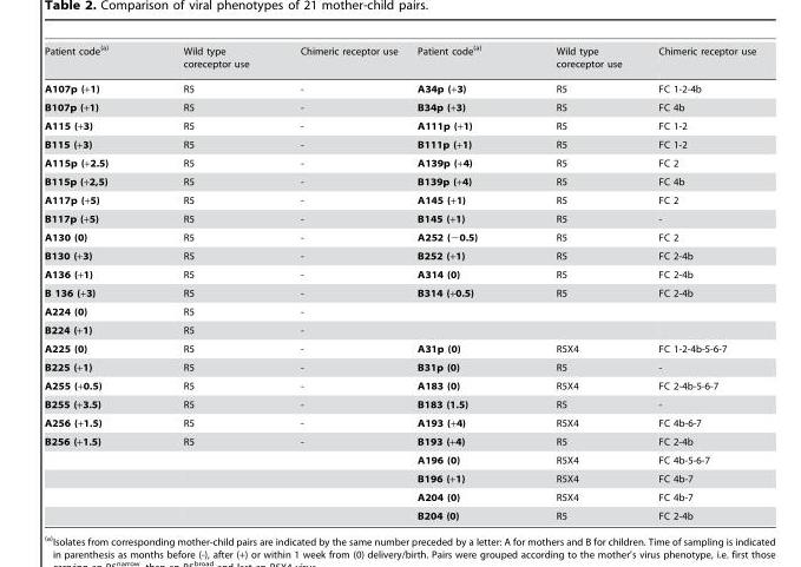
<table><tbody><tr><td>Patient code(a)</td><td>Wild type coreceptor use</td><td>Chimeric receptor use</td><td>Patient code(a)</td><td>Wild type coreceptor use</td><td>Chimeric receptor use</td></tr><tr><td>A107p (+1)</td><td>R5</td><td>-</td><td>A34p (+3)</td><td>R5</td><td>FC 1-2-4b</td></tr><tr><td>B107p (+1)</td><td>R5</td><td>-</td><td>B34p (+3)</td><td>R5</td><td>FC 4b</td></tr><tr><td>A115 (+3)</td><td>R5</td><td>-</td><td>A111p (+1)</td><td>R5</td><td>FC 1-2</td></tr><tr><td>B115 (+3)</td><td>R5</td><td>-</td><td>B111p (+1)</td><td>R5</td><td>FC 1-2</td></tr><tr><td>A115p (+2.5)</td><td>R5</td><td>-</td><td>A139p (+4)</td><td>R5</td><td>FC 2</td></tr><tr><td>B115p (+2,5)</td><td>R5</td><td>-</td><td>B139p (+4)</td><td>R5</td><td>FC 4b</td></tr><tr><td>A117p (+5)</td><td>R5</td><td>-</td><td>A145 (+1)</td><td>R5</td><td>FC 2</td></tr><tr><td>B117p (+5)</td><td>R5</td><td>-</td><td>B145 (+1)</td><td>R5</td><td>-</td></tr><tr><td>A130 (0)</td><td>R5</td><td>-</td><td>A252 (−0.5)</td><td>R5</td><td>FC 2</td></tr><tr><td>B130 (+3)</td><td>R5</td><td>-</td><td>B252 (+1)</td><td>R5</td><td>FC 2-4b</td></tr><tr><td>A136 (+1)</td><td>R5</td><td>-</td><td>A314 (0)</td><td>R5</td><td>FC 2-4b</td></tr><tr><td>B 136 (+3)</td><td>R5</td><td>-</td><td>B314 (+0.5)</td><td>R5</td><td>FC 2-4b</td></tr><tr><td>A224 (0)</td><td>R5</td><td>-</td><td></td><td></td><td></td></tr><tr><td>B224 (+1)</td><td>R5</td><td>-</td><td></td><td></td><td></td></tr><tr><td>A225 (0)</td><td>R5</td><td>-</td><td>A31p (0)</td><td>R5X4</td><td>FC 1-2-4b-5-6-7</td></tr><tr><td>B225 (+1)</td><td>R5</td><td>-</td><td>B31p (0)</td><td>R5</td><td>-</td></tr><tr><td>A255 (+0.5)</td><td>R5</td><td>-</td><td>A183 (0)</td><td>R5X4</td><td>FC 2-4b-5-6-7</td></tr><tr><td>B255 (+3.5)</td><td>R5</td><td>-</td><td>B183 (1.5)</td><td>R5</td><td>-</td></tr><tr><td>A256 (+1.5)</td><td>R5</td><td>-</td><td>A193 (+4)</td><td>R5X4</td><td>FC 4b-6-7</td></tr><tr><td rowspan="5">B256 (+1.5)</td><td>R5</td><td>-</td><td>B193 (+4)</td><td>R5</td><td>FC 2-4b</td></tr><tr><td></td><td></td><td>A196 (0)</td><td>R5X4</td><td>FC 4b-5-6-7</td></tr><tr><td></td><td></td><td>B196 (+1)</td><td>R5X4</td><td>FC 4b-7</td></tr><tr><td></td><td></td><td>A204 (0)</td><td>R5X4</td><td>FC 4b-7</td></tr><tr><td></td><td></td><td>B204 (0)</td><td>R5</td><td>FC 2-4b</td></tr></tbody></table>